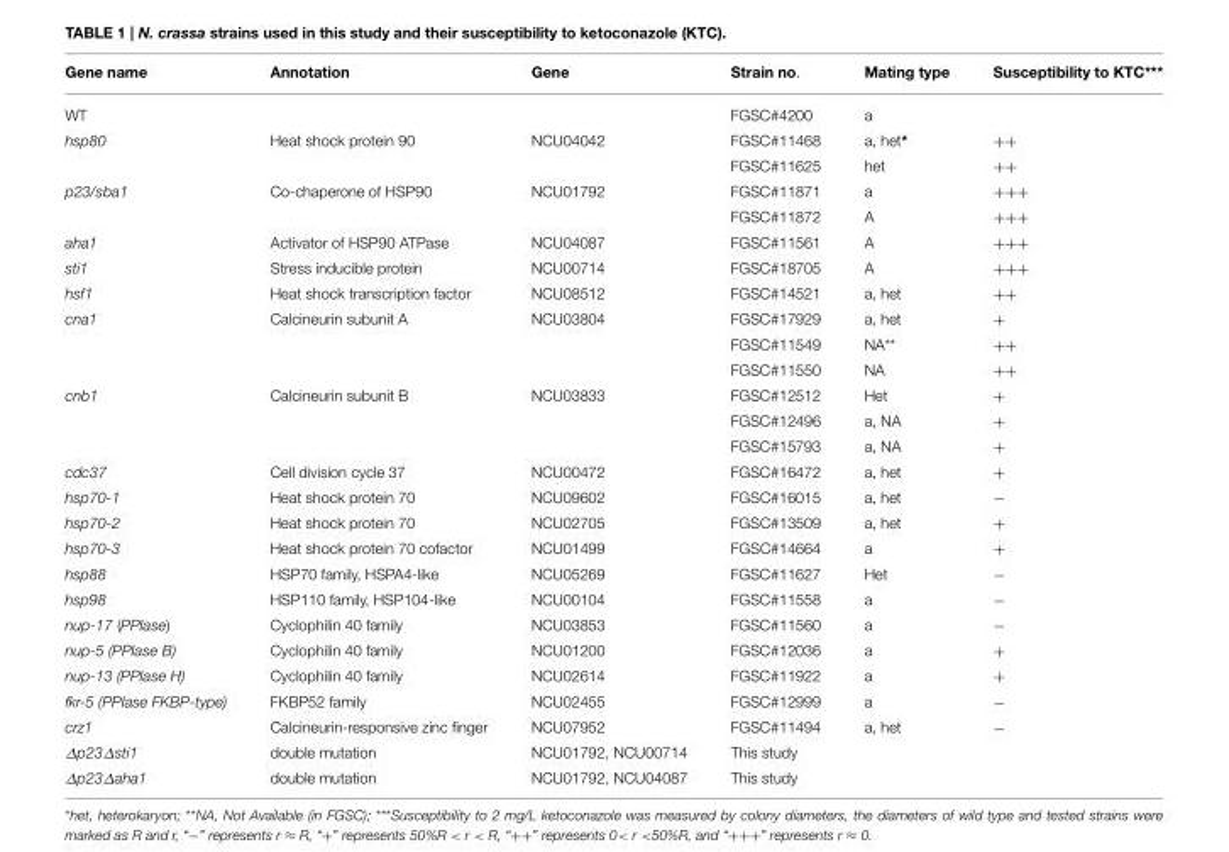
<table><thead><tr><td>Gene name</td><td>Annotation</td><td>Gene</td><td>Strain no.</td><td>Mating type</td><td>Susceptibility to KTC***</td></tr></thead><tbody><tr><td>WT</td><td></td><td></td><td>FGSC#4200</td><td>a</td><td></td></tr><tr><td rowspan="2">hsp80</td><td>Heat shock protein 90</td><td>NCU04042</td><td>FGSC#11468</td><td>a, het*</td><td>++</td></tr><tr><td></td><td></td><td>FGSC#11625</td><td>het</td><td>++</td></tr><tr><td rowspan="2">p23/sba1</td><td>Co-chaperone of HSP90</td><td>NCU01792</td><td>FGSC#11871</td><td>a</td><td>+++</td></tr><tr><td></td><td></td><td>FGSC#11872</td><td>A</td><td>+++</td></tr><tr><td>aha1</td><td>Activator of HSP90 ATPase</td><td>NCU04087</td><td>FGSC#11561</td><td>A</td><td>+++</td></tr><tr><td>sti1</td><td>Stress inducible protein</td><td>NCU00714</td><td>FGSC#18705</td><td>A</td><td>+++</td></tr><tr><td>hsf1</td><td>Heat shock transcription factor</td><td>NCU08512</td><td>FGSC#14521</td><td>a, het</td><td>++</td></tr><tr><td rowspan="3">cna1</td><td>Calcineurin subunit A</td><td>NCU03804</td><td>FGSC#17929</td><td>a, het</td><td>+</td></tr><tr><td></td><td></td><td>FGSC#11549</td><td>NA**</td><td>++</td></tr><tr><td></td><td></td><td>FGSC#11550</td><td>NA</td><td>++</td></tr><tr><td rowspan="3">cnb1</td><td>Calcineurin subunit B</td><td>NCU03833</td><td>FGSC#12512</td><td>Het</td><td>+</td></tr><tr><td></td><td></td><td>FGSC#12496</td><td>a, NA</td><td>+</td></tr><tr><td></td><td></td><td>FGSC#15793</td><td>a, NA</td><td>+</td></tr><tr><td>cdc37</td><td>Cell division cycle 37</td><td>NCU00472</td><td>FGSC#16472</td><td>a, het</td><td>+</td></tr><tr><td>hsp70-1</td><td>Heat shock protein 70</td><td>NCU09602</td><td>FGSC#16015</td><td>a, het</td><td>−</td></tr><tr><td>hsp70-2</td><td>Heat shock protein 70</td><td>NCU02705</td><td>FGSC#13509</td><td>a, het</td><td>+</td></tr><tr><td>hsp70-3</td><td>Heat shock protein 70 cofactor</td><td>NCU01499</td><td>FGSC#14664</td><td>a</td><td>+</td></tr><tr><td>hsp88</td><td>HSP70 family, HSPA4-like</td><td>NCU05269</td><td>FGSC#11627</td><td>Het</td><td>−</td></tr><tr><td>hsp98</td><td>HSP110 family, HSP104-like</td><td>NCU00104</td><td>FGSC#11558</td><td>a</td><td>−</td></tr><tr><td>nup-17 (PPIase)</td><td>Cyclophilin 40 family</td><td>NCU03853</td><td>FGSC#11560</td><td>a</td><td>−</td></tr><tr><td>nup-5 (PPIase B)</td><td>Cyclophilin 40 family</td><td>NCU01200</td><td>FGSC#12036</td><td>a</td><td>+</td></tr><tr><td>nup-13 (PPIase H)</td><td>Cyclophilin 40 family</td><td>NCU02614</td><td>FGSC#11922</td><td>a</td><td>+</td></tr><tr><td>fkr-5 (PPIase FKBP-type)</td><td>FKBP52 family</td><td>NCU02455</td><td>FGSC#12999</td><td>a</td><td>−</td></tr><tr><td>crz1</td><td>Calcineurin-responsive zinc finger</td><td>NCU07952</td><td>FGSC#11494</td><td>a, het</td><td>−</td></tr><tr><td>∆p23∆sti1</td><td>double mutation</td><td>NCU01792, NCU00714</td><td>This study</td><td></td><td></td></tr><tr><td>∆p23∆aha1</td><td>double mutation</td><td>NCU01792, NCU04087</td><td>This study</td><td></td><td></td></tr></tbody></table>